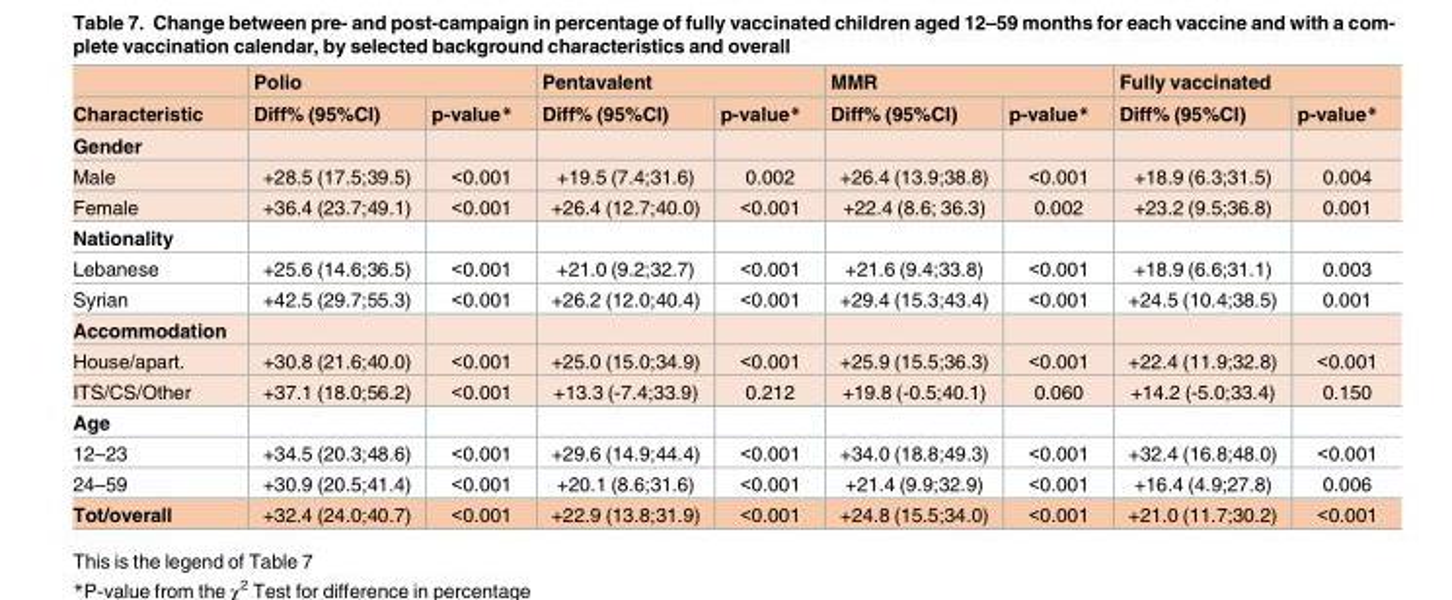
<table><thead><tr><td rowspan="2">Characteristic</td><td colspan="2">Polio</td><td colspan="2">Pentavalent</td><td colspan="2">MMR</td><td colspan="2">Fully vaccinated</td></tr><tr><td>Diff% (95%CI)</td><td>p-value*</td><td>Diff% (95%CI)</td><td>p-value*</td><td>Diff% (95%CI)</td><td>p-value*</td><td>Diff% (95%CI)</td><td>p-value*</td></tr></thead><tbody><tr><td colspan="9">Gender</td></tr><tr><td>Male</td><td>+28.5 (17.5;39.5)</td><td>&lt;0.001</td><td>+19.5 (7.4;31.6)</td><td>0.002</td><td>+26.4 (13.9;38.8)</td><td>&lt;0.001</td><td>+18.9 (6.3;31.5)</td><td>0.004</td></tr><tr><td>Female</td><td>+36.4 (23.7;49.1)</td><td>&lt;0.001</td><td>+26.4 (12.7;40.0)</td><td>&lt;0.001</td><td>+22.4 (8.6; 36.3)</td><td>0.002</td><td>+23.2 (9.5;36.8)</td><td>0.001</td></tr><tr><td colspan="9">Nationality</td></tr><tr><td>Lebanese</td><td>+25.6 (14.6;36.5)</td><td>&lt;0.001</td><td>+21.0 (9.2;32.7)</td><td>&lt;0.001</td><td>+21.6 (9.4;33.8)</td><td>&lt;0.001</td><td>+18.9 (6.6;31.1)</td><td>0.003</td></tr><tr><td>Syrian</td><td>+42.5 (29.7;55.3)</td><td>&lt;0.001</td><td>+26.2 (12.0;40.4)</td><td>&lt;0.001</td><td>+29.4 (15.3;43.4)</td><td>&lt;0.001</td><td>+24.5 (10.4;38.5)</td><td>0.001</td></tr><tr><td colspan="9">Accommodation</td></tr><tr><td>House/apart.</td><td>+30.8 (21.6;40.0)</td><td>&lt;0.001</td><td>+25.0 (15.0;34.9)</td><td>&lt;0.001</td><td>+25.9 (15.5;36.3)</td><td>&lt;0.001</td><td>+22.4 (11.9;32.8)</td><td>&lt;0.001</td></tr><tr><td>ITS/CS/Other</td><td>+37.1 (18.0;56.2)</td><td>&lt;0.001</td><td>+13.3 (-7.4;33.9)</td><td>0.212</td><td>+19.8 (-0.5;40.1)</td><td>0.060</td><td>+14.2 (-5.0;33.4)</td><td>0.150</td></tr><tr><td colspan="9">Age</td></tr><tr><td>12–23</td><td>+34.5 (20.3;48.6)</td><td>&lt;0.001</td><td>+29.6 (14.9;44.4)</td><td>&lt;0.001</td><td>+34.0 (18.8;49.3)</td><td>&lt;0.001</td><td>+32.4 (16.8;48.0)</td><td>&lt;0.001</td></tr><tr><td>24–59</td><td>+30.9 (20.5;41.4)</td><td>&lt;0.001</td><td>+20.1 (8.6;31.6)</td><td>&lt;0.001</td><td>+21.4 (9.9;32.9)</td><td>&lt;0.001</td><td>+16.4 (4.9;27.8)</td><td>0.006</td></tr><tr><td>Tot/overall</td><td>+32.4 (24.0;40.7)</td><td>&lt;0.001</td><td>+22.9 (13.8;31.9)</td><td>&lt;0.001</td><td>+24.8 (15.5;34.0)</td><td>&lt;0.001</td><td>+21.0 (11.7;30.2)</td><td>&lt;0.001</td></tr></tbody></table>